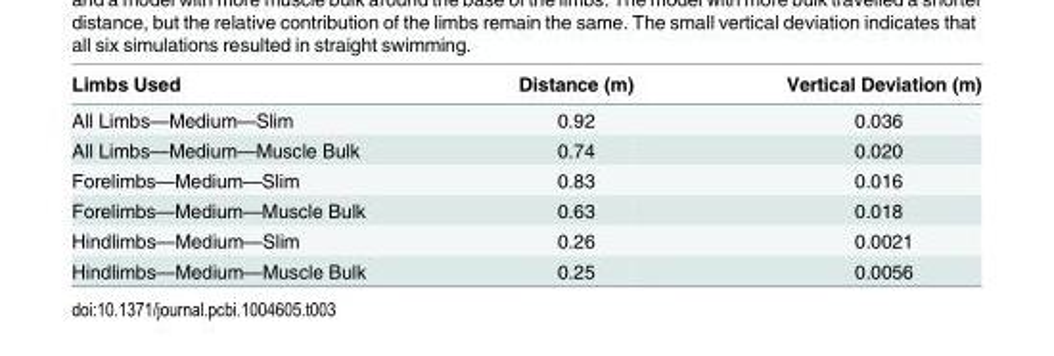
<table><thead><tr><td>Limbs Used</td><td>Distance (m)</td><td>Vertical Deviation (m)</td></tr></thead><tbody><tr><td>All Limbs—Medium—Slim</td><td>0.92</td><td>0.036</td></tr><tr><td>All Limbs—Medium—Muscle Bulk</td><td>0.74</td><td>0.020</td></tr><tr><td>Forelimbs—Medium—Slim</td><td>0.83</td><td>0.016</td></tr><tr><td>Forelimbs—Medium—Muscle Bulk</td><td>0.63</td><td>0.018</td></tr><tr><td>Hindlimbs—Medium—Slim</td><td>0.26</td><td>0.0021</td></tr><tr><td>Hindlimbs—Medium—Muscle Bulk</td><td>0.25</td><td>0.0056</td></tr></tbody></table>